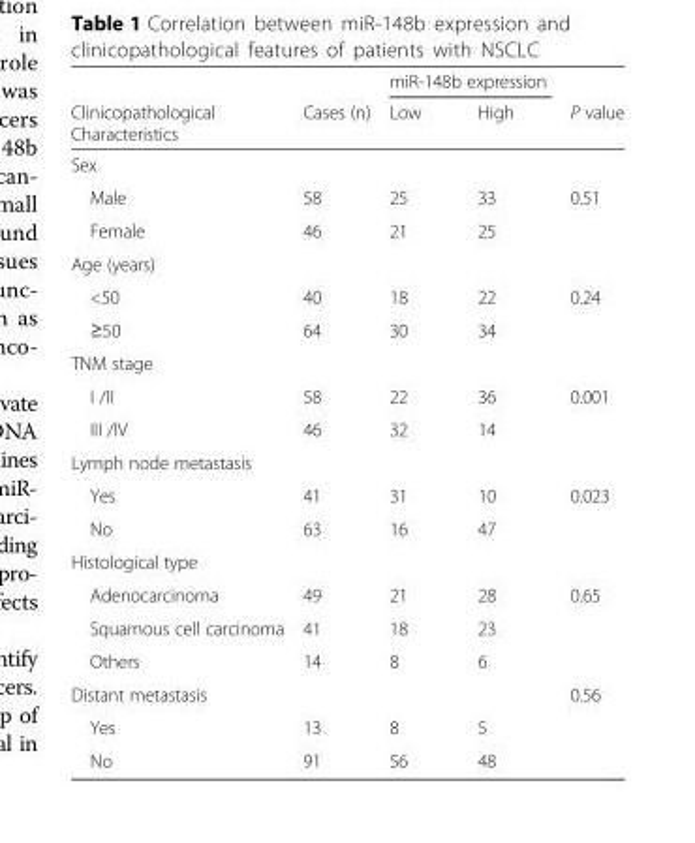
<table><thead><tr><td rowspan="2">Clinicopathological Characteristics</td><td rowspan="2">Cases (n)</td><td colspan="2">miR-148b expression</td><td rowspan="2">P value</td></tr><tr><td>Low</td><td>High</td></tr></thead><tbody><tr><td colspan="5">Sex</td></tr><tr><td>Male</td><td>58</td><td>25</td><td>33</td><td>0.51</td></tr><tr><td>Female</td><td>46</td><td>21</td><td>25</td><td></td></tr><tr><td colspan="5">Age (years)</td></tr><tr><td>&lt;50</td><td>40</td><td>18</td><td>22</td><td>0.24</td></tr><tr><td>≥50</td><td>64</td><td>30</td><td>34</td><td></td></tr><tr><td colspan="5">TNM stage</td></tr><tr><td>I /II</td><td>58</td><td>22</td><td>36</td><td>0.001</td></tr><tr><td>III /IV</td><td>46</td><td>32</td><td>14</td><td></td></tr><tr><td colspan="5">Lymph node metastasis</td></tr><tr><td>Yes</td><td>41</td><td>31</td><td>10</td><td>0.023</td></tr><tr><td>No</td><td>63</td><td>16</td><td>47</td><td></td></tr><tr><td colspan="5">Histological type</td></tr><tr><td>Adenocarcinoma</td><td>49</td><td>21</td><td>28</td><td>0.65</td></tr><tr><td>Squamous cell carcinoma</td><td>41</td><td>18</td><td>23</td><td></td></tr><tr><td>Others</td><td>14</td><td>8</td><td>6</td><td></td></tr><tr><td>Distant metastasis</td><td></td><td></td><td></td><td>0.56</td></tr><tr><td>Yes</td><td>13</td><td>8</td><td>5</td><td></td></tr><tr><td>No</td><td>91</td><td>56</td><td>48</td><td></td></tr></tbody></table>